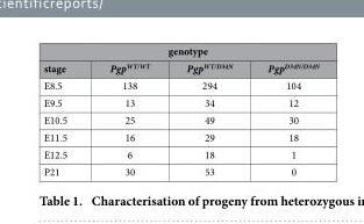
<table><thead><tr><td colspan="4">genotype</td></tr><tr><td>stage</td><td>Pgp<sup>WT/WT</sup></td><td>Pgp<sup>WT/D34N</sup></td><td>Pgp<sup>D34N/D34N</sup></td></tr></thead><tbody><tr><td>E8.5</td><td>138</td><td>294</td><td>104</td></tr><tr><td>E9.5</td><td>13</td><td>34</td><td>12</td></tr><tr><td>E10.5</td><td>25</td><td>49</td><td>30</td></tr><tr><td>E11.5</td><td>16</td><td>29</td><td>18</td></tr><tr><td>E12.5</td><td>6</td><td>18</td><td>1</td></tr><tr><td>P21</td><td>30</td><td>53</td><td>0</td></tr></tbody></table>